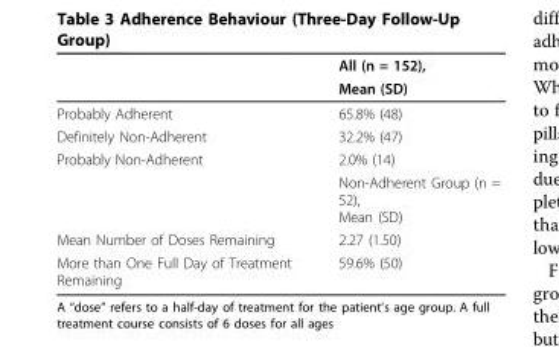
<table><thead><tr><td rowspan="2"></td><td rowspan="2">All (n = 152), Mean (SD)</td></tr><tr></tr></thead><tbody><tr><td>Probably Adherent</td><td>65.8% (48)</td></tr><tr><td>Definitely Non-Adherent</td><td>32.2% (47)</td></tr><tr><td rowspan="2">Probably Non-Adherent</td><td>2.0% (14)</td></tr><tr><td>Non-Adherent Group (n = 52), Mean (SD)</td></tr><tr><td>Mean Number of Doses Remaining</td><td>2.27 (1.50)</td></tr><tr><td>More than One Full Day of Treatment Remaining</td><td>59.6% (50)</td></tr></tbody></table>